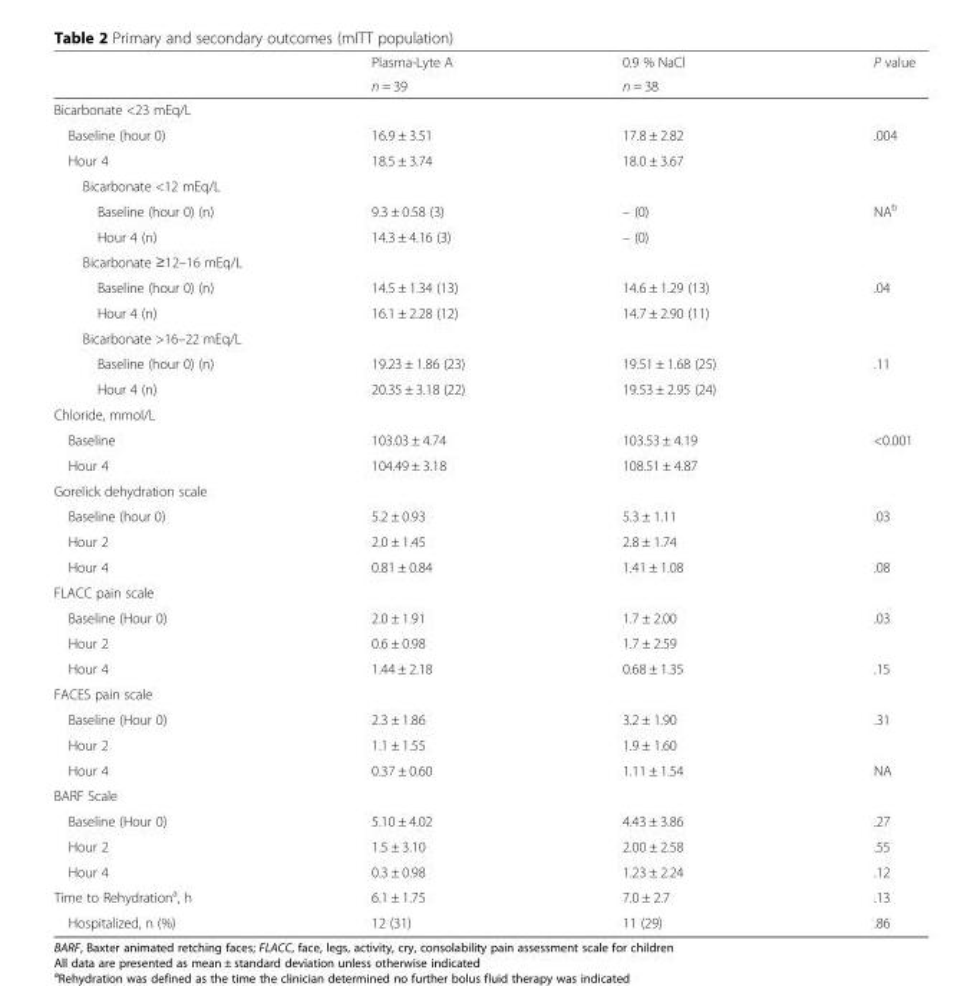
<table><thead><tr><td rowspan="2"></td><td rowspan="2">Plasma-Lyte A n = 39</td><td rowspan="2">0.9 % NaCl n = 38</td><td rowspan="2">P value</td></tr><tr></tr></thead><tbody><tr><td colspan="4">Bicarbonate &lt;23 mEq/L</td></tr><tr><td>Baseline (hour 0)</td><td>16.9 ± 3.51</td><td>17.8 ± 2.82</td><td rowspan="2">.004</td></tr><tr><td>Hour 4</td><td>18.5 ± 3.74</td><td>18.0 ± 3.67</td></tr><tr><td colspan="4">Bicarbonate &lt;12 mEq/L</td></tr><tr><td>Baseline (hour 0) (n)</td><td>9.3 ± 0.58 (3)</td><td>– (0)</td><td rowspan="2">NA<sup>b</sup></td></tr><tr><td>Hour 4 (n)</td><td>14.3 ± 4.16 (3)</td><td>– (0)</td></tr><tr><td colspan="4">Bicarbonate ≥12–16 mEq/L</td></tr><tr><td>Baseline (hour 0) (n)</td><td>14.5 ± 1.34 (13)</td><td>14.6 ± 1.29 (13)</td><td rowspan="2">.04</td></tr><tr><td>Hour 4 (n)</td><td>16.1 ± 2.28 (12)</td><td>14.7 ± 2.90 (11)</td></tr><tr><td colspan="4">Bicarbonate &gt;16–22 mEq/L</td></tr><tr><td>Baseline (hour 0) (n)</td><td>19.23 ± 1.86 (23)</td><td>19.51 ± 1.68 (25)</td><td rowspan="2">.11</td></tr><tr><td>Hour 4 (n)</td><td>20.35 ± 3.18 (22)</td><td>19.53 ± 2.95 (24)</td></tr><tr><td colspan="4">Chloride, mmol/L</td></tr><tr><td>Baseline</td><td>103.03 ± 4.74</td><td>103.53 ± 4.19</td><td rowspan="2">&lt;0.001</td></tr><tr><td>Hour 4</td><td>104.49 ± 3.18</td><td>108.51 ± 4.87</td></tr><tr><td colspan="4">Gorelick dehydration scale</td></tr><tr><td>Baseline (hour 0)</td><td>5.2 ± 0.93</td><td>5.3 ± 1.11</td><td rowspan="2">.03</td></tr><tr><td>Hour 2</td><td>2.0 ± 1.45</td><td>2.8 ± 1.74</td></tr><tr><td>Hour 4</td><td>0.81 ± 0.84</td><td>1.41 ± 1.08</td><td>.08</td></tr><tr><td colspan="4">FLACC pain scale</td></tr><tr><td>Baseline (Hour 0)</td><td>2.0 ± 1.91</td><td>1.7 ± 2.00</td><td rowspan="2">.03</td></tr><tr><td>Hour 2</td><td>0.6 ± 0.98</td><td>1.7 ± 2.59</td></tr><tr><td>Hour 4</td><td>1.44 ± 2.18</td><td>0.68 ± 1.35</td><td>.15</td></tr><tr><td colspan="4">FACES pain scale</td></tr><tr><td>Baseline (Hour 0)</td><td>2.3 ± 1.86</td><td>3.2 ± 1.90</td><td rowspan="2">.31</td></tr><tr><td>Hour 2</td><td>1.1 ± 1.55</td><td>1.9 ± 1.60</td></tr><tr><td>Hour 4</td><td>0.37 ± 0.60</td><td>1.11 ± 1.54</td><td>NA</td></tr><tr><td colspan="4">BARF Scale</td></tr><tr><td>Baseline (Hour 0)</td><td>5.10 ± 4.02</td><td>4.43 ± 3.86</td><td>.27</td></tr><tr><td>Hour 2</td><td>1.5 ± 3.10</td><td>2.00 ± 2.58</td><td>.55</td></tr><tr><td>Hour 4</td><td>0.3 ± 0.98</td><td>1.23 ± 2.24</td><td>.12</td></tr><tr><td>Time to Rehydration<sup>a</sup>, h</td><td>6.1 ± 1.75</td><td>7.0 ± 2.7</td><td>.13</td></tr><tr><td>Hospitalized, n (%)</td><td>12 (31)</td><td>11 (29)</td><td>.86</td></tr></tbody></table>